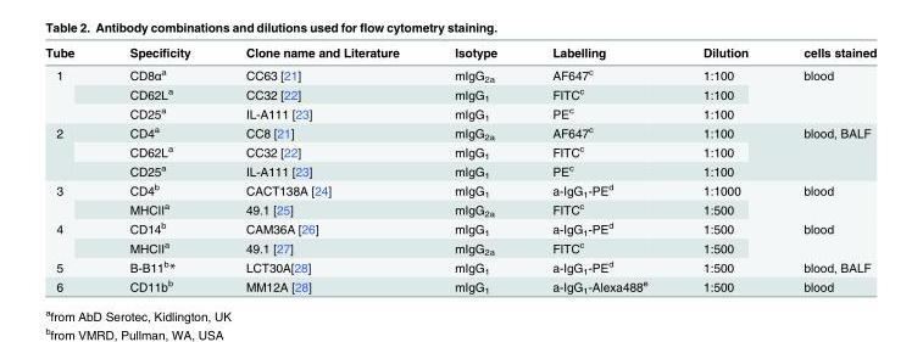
<table><thead><tr><td>Tube</td><td>Specificity</td><td>Clone name and Literature</td><td>Isotype</td><td>Labelling</td><td>Dilution</td><td>cells stained</td></tr></thead><tbody><tr><td rowspan="3">1</td><td>CD8α<sup>a</sup></td><td>CC63 [21]</td><td>mIgG<sub>2a</sub></td><td>AF647<sup>c</sup></td><td>1:100</td><td rowspan="3">blood</td></tr><tr><td>CD62L<sup>a</sup></td><td>CC32 [22]</td><td>mIgG<sub>1</sub></td><td>FITC<sup>c</sup></td><td>1:100</td></tr><tr><td>CD25<sup>a</sup></td><td>IL-A111 [23]</td><td>mIgG<sub>1</sub></td><td>PE<sup>c</sup></td><td>1:100</td></tr><tr><td rowspan="3">2</td><td>CD4<sup>a</sup></td><td>CC8 [21]</td><td>mIgG<sub>2a</sub></td><td>AF647<sup>c</sup></td><td>1:100</td><td rowspan="3">blood, BALF</td></tr><tr><td>CD62L<sup>a</sup></td><td>CC32 [22]</td><td>mIgG<sub>1</sub></td><td>FITC<sup>c</sup></td><td>1:100</td></tr><tr><td>CD25<sup>a</sup></td><td>IL-A111 [23]</td><td>mIgG<sub>1</sub></td><td>PE<sup>c</sup></td><td>1:100</td></tr><tr><td rowspan="2">3</td><td>CD4<sup>b</sup></td><td>CACT138A [24]</td><td>mIgG<sub>1</sub></td><td>a-IgG<sub>1</sub>-PE<sup>d</sup></td><td>1:1000</td><td rowspan="2">blood</td></tr><tr><td>MHCII<sup>a</sup></td><td>49.1 [25]</td><td>mIgG<sub>2a</sub></td><td>FITC<sup>c</sup></td><td>1:500</td></tr><tr><td rowspan="2">4</td><td>CD14<sup>b</sup></td><td>CAM36A [26]</td><td>mIgG<sub>1</sub></td><td>a-IgG<sub>1</sub>-PE<sup>d</sup></td><td>1:500</td><td rowspan="2">blood</td></tr><tr><td>MHCII<sup>a</sup></td><td>49.1 [27]</td><td>mIgG<sub>2a</sub></td><td>FITC<sup>c</sup></td><td>1:500</td></tr><tr><td>5</td><td>B-B11<sup>b</sup>*</td><td>LCT30A[28]</td><td>mIgG<sub>1</sub></td><td>a-IgG<sub>1</sub>-PE<sup>d</sup></td><td>1:500</td><td>blood, BALF</td></tr><tr><td>6</td><td>CD11b<sup>b</sup></td><td>MM12A [28]</td><td>mIgG<sub>1</sub></td><td>a-IgG<sub>1</sub>-Alexa488<sup>e</sup></td><td>1:500</td><td>blood</td></tr></tbody></table>